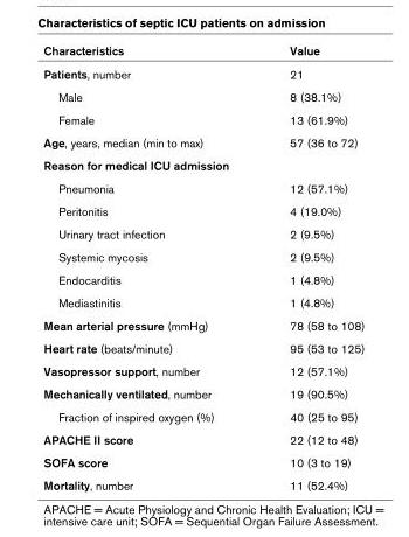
<table><thead><tr><td>Characteristics</td><td>Value</td></tr></thead><tbody><tr><td>Patients, number</td><td>21</td></tr><tr><td>Male</td><td>8 (38.1%)</td></tr><tr><td>Female</td><td>13 (61.9%)</td></tr><tr><td>Age, years, median (min to max)</td><td>57 (36 to 72)</td></tr><tr><td colspan="2">Reason for medical ICU admission</td></tr><tr><td>Pneumonia</td><td>12 (57.1%)</td></tr><tr><td>Peritonitis</td><td>4 (19.0%)</td></tr><tr><td>Urinary tract infection</td><td>2 (9.5%)</td></tr><tr><td>Systemic mycosis</td><td>2 (9.5%)</td></tr><tr><td>Endocarditis</td><td>1 (4.8%)</td></tr><tr><td>Mediastinitis</td><td>1 (4.8%)</td></tr><tr><td>Mean arterial pressure (mmHg)</td><td>78 (58 to 108)</td></tr><tr><td>Heart rate (beats/minute)</td><td>95 (53 to 125)</td></tr><tr><td>Vasopressor support, number</td><td>12 (57.1%)</td></tr><tr><td>Mechanically ventilated, number</td><td>19 (90.5%)</td></tr><tr><td>Fraction of inspired oxygen (%)</td><td>40 (25 to 95)</td></tr><tr><td>APACHE II score</td><td>22 (12 to 48)</td></tr><tr><td>SOFA score</td><td>10 (3 to 19)</td></tr><tr><td>Mortality, number</td><td>11 (52.4%)</td></tr></tbody></table>